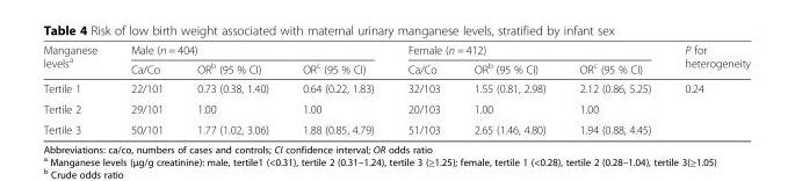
<table><thead><tr><td rowspan="2">Manganese levels<sup>a</sup></td><td colspan="3">Male (n = 404)</td><td colspan="3">Female (n = 412)</td><td rowspan="2">P for heterogeneity</td></tr><tr><td>Ca/Co</td><td>OR<sup>b</sup> (95 % CI)</td><td>OR<sup>c</sup> (95 % CI)</td><td>Ca/Co</td><td>OR<sup>b</sup> (95 % CI)</td><td>OR<sup>c</sup> (95 % CI)</td></tr></thead><tbody><tr><td>Tertile 1</td><td>22/101</td><td>0.73 (0.38, 1.40)</td><td>0.64 (0.22, 1.83)</td><td>32/103</td><td>1.55 (0.81, 2.98)</td><td>2.12 (0.86, 5.25)</td><td>0.24</td></tr><tr><td>Tertile 2</td><td>29/101</td><td>1.00</td><td>1.00</td><td>20/103</td><td>1.00</td><td>1.00</td><td></td></tr><tr><td>Tertile 3</td><td>50/101</td><td>1.77 (1.02, 3.06)</td><td>1.88 (0.85, 4.79)</td><td>51/103</td><td>2.65 (1.46, 4.80)</td><td>1.94 (0.88, 4.45)</td><td></td></tr></tbody></table>